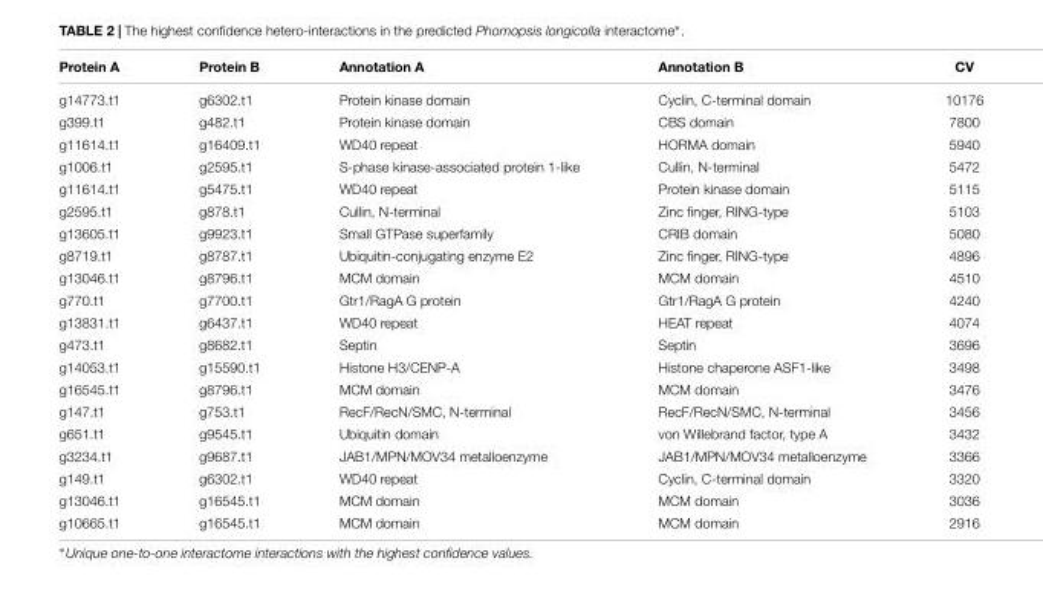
<table><thead><tr><td>Protein A</td><td>Protein B</td><td>Annotation A</td><td>Annotation B</td><td>CV</td></tr></thead><tbody><tr><td>g14773.t1</td><td>g6302.t1</td><td>Protein kinase domain</td><td>Cyclin, C-terminal domain</td><td>10176</td></tr><tr><td>g399.t1</td><td>g482.t1</td><td>Protein kinase domain</td><td>CBS domain</td><td>7800</td></tr><tr><td>g11614.t1</td><td>g16409.t1</td><td>WD40 repeat</td><td>HORMA domain</td><td>5940</td></tr><tr><td>g1006.t1</td><td>g2595.t1</td><td>S-phase kinase-associated protein 1-like</td><td>Cullin, N-terminal</td><td>5472</td></tr><tr><td>g11614.t1</td><td>g5475.t1</td><td>WD40 repeat</td><td>Protein kinase domain</td><td>5115</td></tr><tr><td>g2595.t1</td><td>g878.t1</td><td>Cullin, N-terminal</td><td>Zinc finger, RING-type</td><td>5103</td></tr><tr><td>g13605.t1</td><td>g9923.t1</td><td>Small GTPase superfamily</td><td>CRIB domain</td><td>5080</td></tr><tr><td>g8719.t1</td><td>g8787.t1</td><td>Ubiquitin-conjugating enzyme E2</td><td>Zinc finger, RING-type</td><td>4896</td></tr><tr><td>g13046.t1</td><td>g8796.t1</td><td>MCM domain</td><td>MCM domain</td><td>4510</td></tr><tr><td>g770.t1</td><td>g7700.t1</td><td>Gtr1/RagA G protein</td><td>Gtr1/RagA G protein</td><td>4240</td></tr><tr><td>g13831.t1</td><td>g6437.t1</td><td>WD40 repeat</td><td>HEAT repeat</td><td>4074</td></tr><tr><td>g473.t1</td><td>g8682.t1</td><td>Septin</td><td>Septin</td><td>3696</td></tr><tr><td>g14053.t1</td><td>g15590.t1</td><td>Histone H3/CENP-A</td><td>Histone chaperone ASF1-like</td><td>3498</td></tr><tr><td>g16545.t1</td><td>g8796.t1</td><td>MCM domain</td><td>MCM domain</td><td>3476</td></tr><tr><td>g147.t1</td><td>g753.t1</td><td>RecF/RecN/SMC, N-terminal</td><td>RecF/RecN/SMC, N-terminal</td><td>3456</td></tr><tr><td>g651.t1</td><td>g9545.t1</td><td>Ubiquitin domain</td><td>von Willebrand factor, type A</td><td>3432</td></tr><tr><td>g3234.t1</td><td>g9687.t1</td><td>JAB1/MPN/MOV34 metalloenzyme</td><td>JAB1/MPN/MOV34 metalloenzyme</td><td>3366</td></tr><tr><td>g149.t1</td><td>g6302.t1</td><td>WD40 repeat</td><td>Cyclin, C-terminal domain</td><td>3320</td></tr><tr><td>g13046.t1</td><td>g16545.t1</td><td>MCM domain</td><td>MCM domain</td><td>3036</td></tr><tr><td>g10665.t1</td><td>g16545.t1</td><td>MCM domain</td><td>MCM domain</td><td>2916</td></tr></tbody></table>